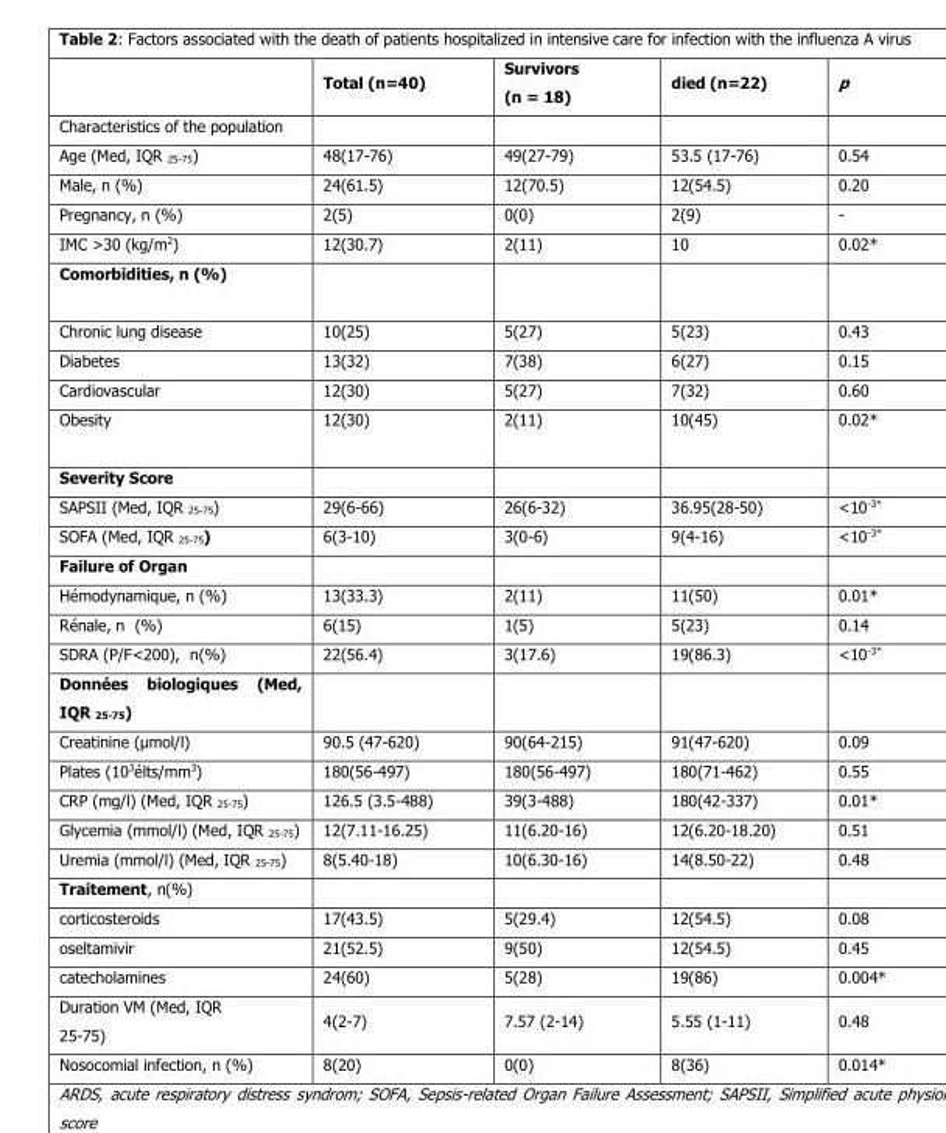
<table><thead><tr><td></td><td>Total (n=40)</td><td>Survivors (n = 18)</td><td>died (n=22)</td><td>p</td></tr></thead><tbody><tr><td colspan="5">Characteristics of the population</td></tr><tr><td>Age (Med, IQR <sub>25-75</sub>)</td><td>48(17-76)</td><td>49(27-79)</td><td>53.5 (17-76)</td><td>0.54</td></tr><tr><td>Male, n (%)</td><td>24(61.5)</td><td>12(70.5)</td><td>12(54.5)</td><td>0.20</td></tr><tr><td>Pregnancy, n (%)</td><td>2(5)</td><td>0(0)</td><td>2(9)</td><td>-</td></tr><tr><td>IMC &gt;30 (kg/m<sup>2</sup>)</td><td>12(30.7)</td><td>2(11)</td><td>10</td><td>0.02*</td></tr><tr><td colspan="5">Comorbidities, n (%)</td></tr><tr><td>Chronic lung disease</td><td>10(25)</td><td>5(27)</td><td>5(23)</td><td>0.43</td></tr><tr><td>Diabetes</td><td>13(32)</td><td>7(38)</td><td>6(27)</td><td>0.15</td></tr><tr><td>Cardiovascular</td><td>12(30)</td><td>5(27)</td><td>7(32)</td><td>0.60</td></tr><tr><td>Obesity</td><td>12(30)</td><td>2(11)</td><td>10(45)</td><td>0.02*</td></tr><tr><td colspan="5">Severity Score</td></tr><tr><td>SAPSII (Med, IQR <sub>25-75</sub>)</td><td>29(6-66)</td><td>26(6-32)</td><td>36.95(28-50)</td><td>&lt;10<sup>-3*</sup></td></tr><tr><td>SOFA (Med, IQR <sub>25-75</sub>)</td><td>6(3-10)</td><td>3(0-6)</td><td>9(4-16)</td><td>&lt;10<sup>-3*</sup></td></tr><tr><td colspan="5">Failure of Organ</td></tr><tr><td>Hémodynamique, n (%)</td><td>13(33.3)</td><td>2(11)</td><td>11(50)</td><td>0.01*</td></tr><tr><td>Rénale, n (%)</td><td>6(15)</td><td>1(5)</td><td>5(23)</td><td>0.14</td></tr><tr><td>SDRA (P/F&lt;200), n(%)</td><td>22(56.4)</td><td>3(17.6)</td><td>19(86.3)</td><td>&lt;10<sup>-3*</sup></td></tr><tr><td colspan="5">Données biologiques (Med, IQR <sub>25-75</sub>)</td></tr><tr><td>Creatinine (µmol/l)</td><td>90.5 (47-620)</td><td>90(64-215)</td><td>91(47-620)</td><td>0.09</td></tr><tr><td>Plates (10<sup>3</sup>élts/mm<sup>3</sup>)</td><td>180(56-497)</td><td>180(56-497)</td><td>180(71-462)</td><td>0.55</td></tr><tr><td>CRP (mg/l) (Med, IQR <sub>25-75</sub>)</td><td>126.5 (3.5-488)</td><td>39(3-488)</td><td>180(42-337)</td><td>0.01*</td></tr><tr><td>Glycemia (mmol/l) (Med, IQR <sub>25-75</sub>)</td><td>12(7.11-16.25)</td><td>11(6.20-16)</td><td>12(6.20-18.20)</td><td>0.51</td></tr><tr><td>Uremia (mmol/l) (Med, IQR <sub>25-75</sub>)</td><td>8(5.40-18)</td><td>10(6.30-16)</td><td>14(8.50-22)</td><td>0.48</td></tr><tr><td colspan="5">Traitement, n(%)</td></tr><tr><td>corticosteroids</td><td>17(43.5)</td><td>5(29.4)</td><td>12(54.5)</td><td>0.08</td></tr><tr><td>oseltamivir</td><td>21(52.5)</td><td>9(50)</td><td>12(54.5)</td><td>0.45</td></tr><tr><td>catecholamines</td><td>24(60)</td><td>5(28)</td><td>19(86)</td><td>0.004*</td></tr><tr><td>Duration VM (Med, IQR 25-75)</td><td>4(2-7)</td><td>7.57 (2-14)</td><td>5.55 (1-11)</td><td>0.48</td></tr><tr><td>Nosocomial infection, n (%)</td><td>8(20)</td><td>0(0)</td><td>8(36)</td><td>0.014*</td></tr></tbody></table>